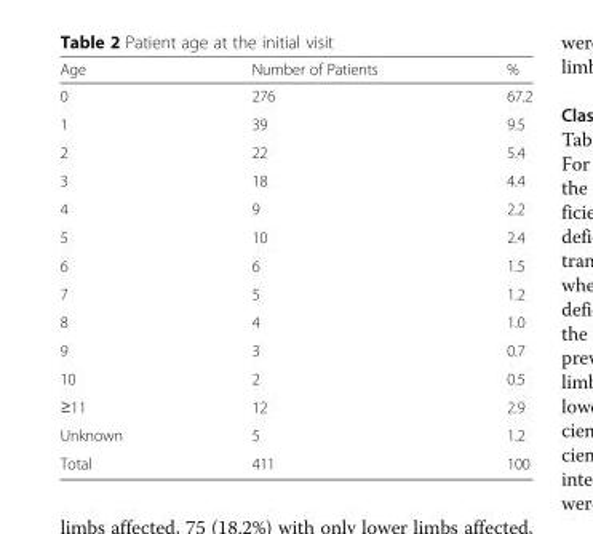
<table><thead><tr><td>Age</td><td>Number of Patients</td><td>%</td></tr></thead><tbody><tr><td>0</td><td>276</td><td>67.2</td></tr><tr><td>1</td><td>39</td><td>9.5</td></tr><tr><td>2</td><td>22</td><td>5.4</td></tr><tr><td>3</td><td>18</td><td>4.4</td></tr><tr><td>4</td><td>9</td><td>2.2</td></tr><tr><td>5</td><td>10</td><td>2.4</td></tr><tr><td>6</td><td>6</td><td>1.5</td></tr><tr><td>7</td><td>5</td><td>1.2</td></tr><tr><td>8</td><td>4</td><td>1.0</td></tr><tr><td>9</td><td>3</td><td>0.7</td></tr><tr><td>10</td><td>2</td><td>0.5</td></tr><tr><td>≥11</td><td>12</td><td>2.9</td></tr><tr><td>Unknown</td><td>5</td><td>1.2</td></tr><tr><td>Total</td><td>411</td><td>100</td></tr></tbody></table>